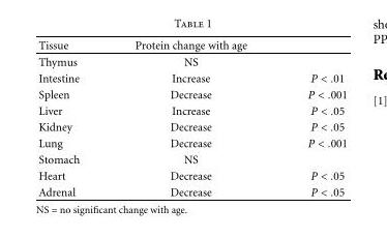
<table><thead><tr><td>Tissue</td><td>Protein change with age</td><td></td></tr></thead><tbody><tr><td>Thymus</td><td>NS</td><td></td></tr><tr><td>Intestine</td><td>Increase</td><td>P &lt; .01</td></tr><tr><td>Spleen</td><td>Decrease</td><td>P &lt; .001</td></tr><tr><td>Liver</td><td>Increase</td><td>P &lt; .05</td></tr><tr><td>Kidney</td><td>Decrease</td><td>P &lt; .05</td></tr><tr><td>Lung</td><td>Decrease</td><td>P &lt; .001</td></tr><tr><td>Stomach</td><td>NS</td><td></td></tr><tr><td>Heart</td><td>Decrease</td><td>P &lt; .05</td></tr><tr><td>Adrenal</td><td>Decrease</td><td>P &lt; .05</td></tr></tbody></table>